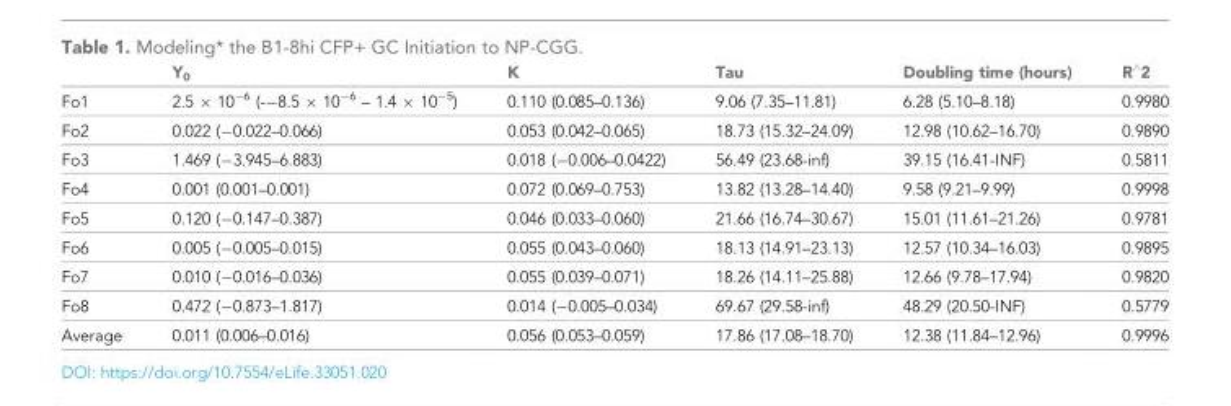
<table><thead><tr><td></td><td>Y<sub>0</sub></td><td>K</td><td>Tau</td><td>Doubling time (hours)</td><td>R<sup>∧</sup>2</td></tr></thead><tbody><tr><td>Fo1</td><td>2.5 × 10<sup>−6</sup> (-−8.5 × 10<sup>−6</sup> – 1.4 × 10<sup>−5</sup>)</td><td>0.110 (0.085–0.136)</td><td>9.06 (7.35–11.81)</td><td>6.28 (5.10–8.18)</td><td>0.9980</td></tr><tr><td>Fo2</td><td>0.022 (−0.022–0.066)</td><td>0.053 (0.042–0.065)</td><td>18.73 (15.32–24.09)</td><td>12.98 (10.62–16.70)</td><td>0.9890</td></tr><tr><td>Fo3</td><td>1.469 (−3.945–6.883)</td><td>0.018 (−0.006–0.0422)</td><td>56.49 (23.68-inf)</td><td>39.15 (16.41-INF)</td><td>0.5811</td></tr><tr><td>Fo4</td><td>0.001 (0.001–0.001)</td><td>0.072 (0.069–0.753)</td><td>13.82 (13.28–14.40)</td><td>9.58 (9.21–9.99)</td><td>0.9998</td></tr><tr><td>Fo5</td><td>0.120 (−0.147–0.387)</td><td>0.046 (0.033–0.060)</td><td>21.66 (16.74–30.67)</td><td>15.01 (11.61–21.26)</td><td>0.9781</td></tr><tr><td>Fo6</td><td>0.005 (−0.005–0.015)</td><td>0.055 (0.043–0.060)</td><td>18.13 (14.91–23.13)</td><td>12.57 (10.34–16.03)</td><td>0.9895</td></tr><tr><td>Fo7</td><td>0.010 (−0.016–0.036)</td><td>0.055 (0.039–0.071)</td><td>18.26 (14.11–25.88)</td><td>12.66 (9.78–17.94)</td><td>0.9820</td></tr><tr><td>Fo8</td><td>0.472 (−0.873–1.817)</td><td>0.014 (−0.005–0.034)</td><td>69.67 (29.58-inf)</td><td>48.29 (20.50-INF)</td><td>0.5779</td></tr><tr><td>Average</td><td>0.011 (0.006–0.016)</td><td>0.056 (0.053–0.059)</td><td>17.86 (17.08–18.70)</td><td>12.38 (11.84–12.96)</td><td>0.9996</td></tr></tbody></table>